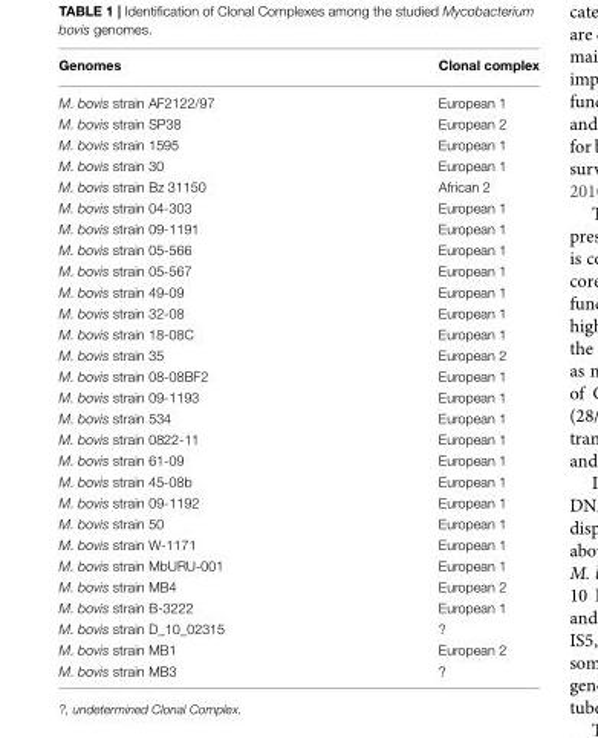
<table><thead><tr><td>Genomes</td><td>Clonal complex</td></tr></thead><tbody><tr><td>M. bovis strain AF2122/97</td><td>European 1</td></tr><tr><td>M. bovis strain SP38</td><td>European 2</td></tr><tr><td>M. bovis strain 1595</td><td>European 1</td></tr><tr><td>M. bovis strain 30</td><td>European 1</td></tr><tr><td>M. bovis strain Bz 31150</td><td>African 2</td></tr><tr><td>M. bovis strain 04-303</td><td>European 1</td></tr><tr><td>M. bovis strain 09-1191</td><td>European 1</td></tr><tr><td>M. bovis strain 05-566</td><td>European 1</td></tr><tr><td>M. bovis strain 05-567</td><td>European 1</td></tr><tr><td>M. bovis strain 49-09</td><td>European 1</td></tr><tr><td>M. bovis strain 32-08</td><td>European 1</td></tr><tr><td>M. bovis strain 18-08C</td><td>European 1</td></tr><tr><td>M. bovis strain 35</td><td>European 2</td></tr><tr><td>M. bovis strain 08-08BF2</td><td>European 1</td></tr><tr><td>M. bovis strain 09-1193</td><td>European 1</td></tr><tr><td>M. bovis strain 534</td><td>European 1</td></tr><tr><td>M. bovis strain 0822-11</td><td>European 1</td></tr><tr><td>M. bovis strain 61-09</td><td>European 1</td></tr><tr><td>M. bovis strain 45-08b</td><td>European 1</td></tr><tr><td>M. bovis strain 09-1192</td><td>European 1</td></tr><tr><td>M. bovis strain 50</td><td>European 1</td></tr><tr><td>M. bovis strain W-1171</td><td>European 1</td></tr><tr><td>M. bovis strain MbURU-001</td><td>European 1</td></tr><tr><td>M. bovis strain MB4</td><td>European 2</td></tr><tr><td>M. bovis strain B-3222</td><td>European 1</td></tr><tr><td>M. bovis strain D_10_02315</td><td>?</td></tr><tr><td>M. bovis strain MB1</td><td>European 2</td></tr><tr><td>M. bovis strain MB3</td><td>?</td></tr></tbody></table>